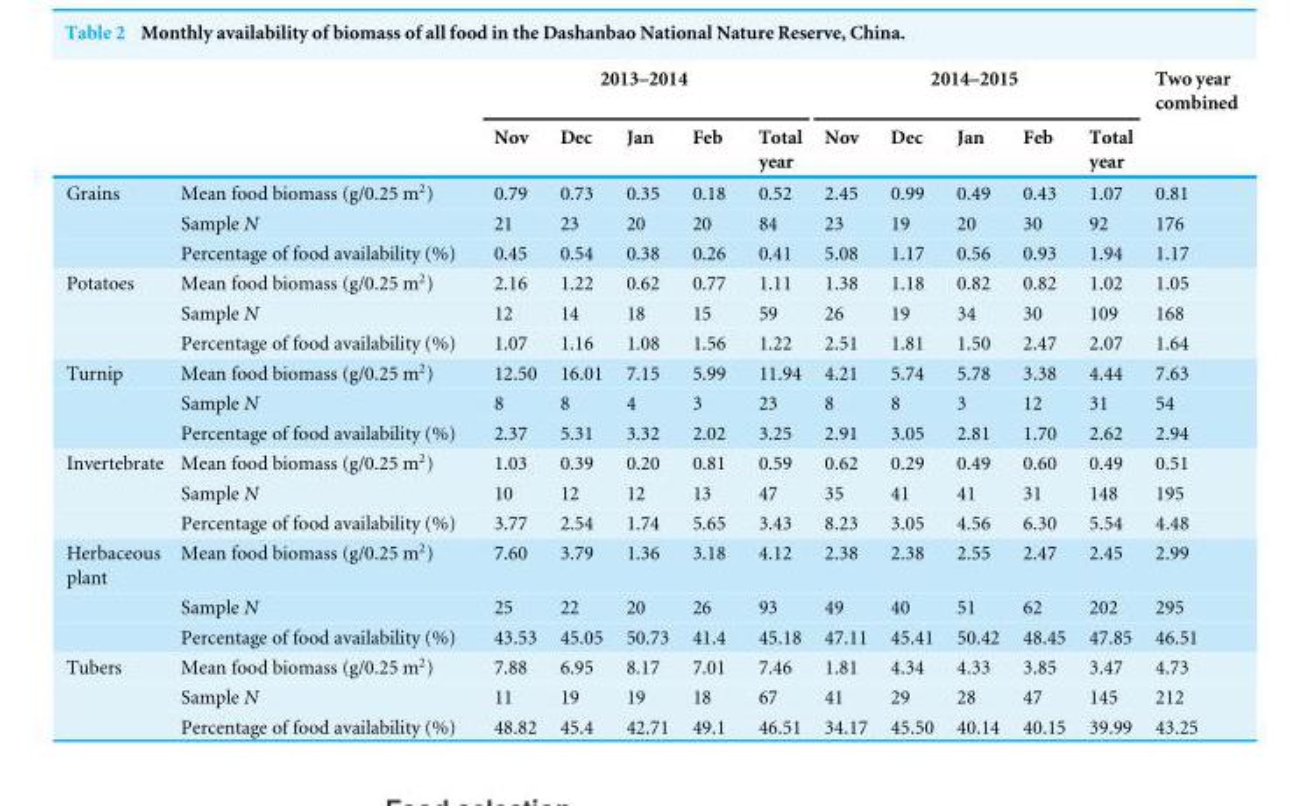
<table><thead><tr><td rowspan="2"></td><td rowspan="2"></td><td colspan="5">2013–2014</td><td colspan="5">2014–2015</td><td rowspan="2">Two year combined</td></tr><tr><td>Nov</td><td>Dec</td><td>Jan</td><td>Feb</td><td>Total year</td><td>Nov</td><td>Dec</td><td>Jan</td><td>Feb</td><td>Total year</td></tr></thead><tbody><tr><td rowspan="3">Grains</td><td>Mean food biomass (g/0.25 m<sup>2</sup>)</td><td>0.79</td><td>0.73</td><td>0.35</td><td>0.18</td><td>0.52</td><td>2.45</td><td>0.99</td><td>0.49</td><td>0.43</td><td>1.07</td><td>0.81</td></tr><tr><td>Sample N</td><td>21</td><td>23</td><td>20</td><td>20</td><td>84</td><td>23</td><td>19</td><td>20</td><td>30</td><td>92</td><td>176</td></tr><tr><td>Percentage of food availability (%)</td><td>0.45</td><td>0.54</td><td>0.38</td><td>0.26</td><td>0.41</td><td>5.08</td><td>1.17</td><td>0.56</td><td>0.93</td><td>1.94</td><td>1.17</td></tr><tr><td rowspan="3">Potatoes</td><td>Mean food biomass (g/0.25 m<sup>2</sup>)</td><td>2.16</td><td>1.22</td><td>0.62</td><td>0.77</td><td>1.11</td><td>1.38</td><td>1.18</td><td>0.82</td><td>0.82</td><td>1.02</td><td>1.05</td></tr><tr><td>Sample N</td><td>12</td><td>14</td><td>18</td><td>15</td><td>59</td><td>26</td><td>19</td><td>34</td><td>30</td><td>109</td><td>168</td></tr><tr><td>Percentage of food availability (%)</td><td>1.07</td><td>1.16</td><td>1.08</td><td>1.56</td><td>1.22</td><td>2.51</td><td>1.81</td><td>1.50</td><td>2.47</td><td>2.07</td><td>1.64</td></tr><tr><td rowspan="3">Turnip</td><td>Mean food biomass (g/0.25 m<sup>2</sup>)</td><td>12.50</td><td>16.01</td><td>7.15</td><td>5.99</td><td>11.94</td><td>4.21</td><td>5.74</td><td>5.78</td><td>3.38</td><td>4.44</td><td>7.63</td></tr><tr><td>Sample N</td><td>8</td><td>8</td><td>4</td><td>3</td><td>23</td><td>8</td><td>8</td><td>3</td><td>12</td><td>31</td><td>54</td></tr><tr><td>Percentage of food availability (%)</td><td>2.37</td><td>5.31</td><td>3.32</td><td>2.02</td><td>3.25</td><td>2.91</td><td>3.05</td><td>2.81</td><td>1.70</td><td>2.62</td><td>2.94</td></tr><tr><td rowspan="3">Invertebrate</td><td>Mean food biomass (g/0.25 m<sup>2</sup>)</td><td>1.03</td><td>0.39</td><td>0.20</td><td>0.81</td><td>0.59</td><td>0.62</td><td>0.29</td><td>0.49</td><td>0.60</td><td>0.49</td><td>0.51</td></tr><tr><td>Sample N</td><td>10</td><td>12</td><td>12</td><td>13</td><td>47</td><td>35</td><td>41</td><td>41</td><td>31</td><td>148</td><td>195</td></tr><tr><td>Percentage of food availability (%)</td><td>3.77</td><td>2.54</td><td>1.74</td><td>5.65</td><td>3.43</td><td>8.23</td><td>3.05</td><td>4.56</td><td>6.30</td><td>5.54</td><td>4.48</td></tr><tr><td rowspan="3">Herbaceous plant</td><td>Mean food biomass (g/0.25 m<sup>2</sup>)</td><td>7.60</td><td>3.79</td><td>1.36</td><td>3.18</td><td>4.12</td><td>2.38</td><td>2.38</td><td>2.55</td><td>2.47</td><td>2.45</td><td>2.99</td></tr><tr><td>Sample N</td><td>25</td><td>22</td><td>20</td><td>26</td><td>93</td><td>49</td><td>40</td><td>51</td><td>62</td><td>202</td><td>295</td></tr><tr><td>Percentage of food availability (%)</td><td>43.53</td><td>45.05</td><td>50.73</td><td>41.4</td><td>45.18</td><td>47.11</td><td>45.41</td><td>50.42</td><td>48.45</td><td>47.85</td><td>46.51</td></tr><tr><td rowspan="3">Tubers</td><td>Mean food biomass (g/0.25 m<sup>2</sup>)</td><td>7.88</td><td>6.95</td><td>8.17</td><td>7.01</td><td>7.46</td><td>1.81</td><td>4.34</td><td>4.33</td><td>3.85</td><td>3.47</td><td>4.73</td></tr><tr><td>Sample N</td><td>11</td><td>19</td><td>19</td><td>18</td><td>67</td><td>41</td><td>29</td><td>28</td><td>47</td><td>145</td><td>212</td></tr><tr><td>Percentage of food availability (%)</td><td>48.82</td><td>45.4</td><td>42.71</td><td>49.1</td><td>46.51</td><td>34.17</td><td>45.50</td><td>40.14</td><td>40.15</td><td>39.99</td><td>43.25</td></tr></tbody></table>